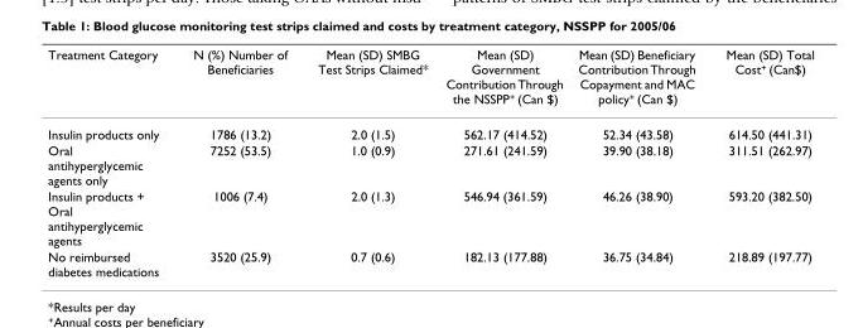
<table><thead><tr><td>Treatment Category</td><td>N (%) Number of Beneficiaries</td><td>Mean (SD) SMBG Test Strips Claimed*</td><td>Mean (SD) Government Contribution Through the NSSPP<sup>+</sup> (Can $)</td><td>Mean (SD) Beneficiary Contribution Through Copayment and MAC policy<sup>+</sup> (Can $)</td><td>Mean (SD) Total Cost<sup>+</sup> (Can$)</td></tr></thead><tbody><tr><td>Insulin products only</td><td>1786 (13.2)</td><td>2.0 (1.5)</td><td>562.17 (414.52)</td><td>52.34 (43.58)</td><td>614.50 (441.31)</td></tr><tr><td>Oral antihyperglycemic agents only</td><td>7252 (53.5)</td><td>1.0 (0.9)</td><td>271.61 (241.59)</td><td>39.90 (38.18)</td><td>311.51 (262.97)</td></tr><tr><td>Insulin products + Oral antihyperglycemic agents</td><td>1006 (7.4)</td><td>2.0 (1.3)</td><td>546.94 (361.59)</td><td>46.26 (38.90)</td><td>593.20 (382.50)</td></tr><tr><td>No reimbursed diabetes medications</td><td>3520 (25.9)</td><td>0.7 (0.6)</td><td>182.13 (177.88)</td><td>36.75 (34.84)</td><td>218.89 (197.77)</td></tr></tbody></table>